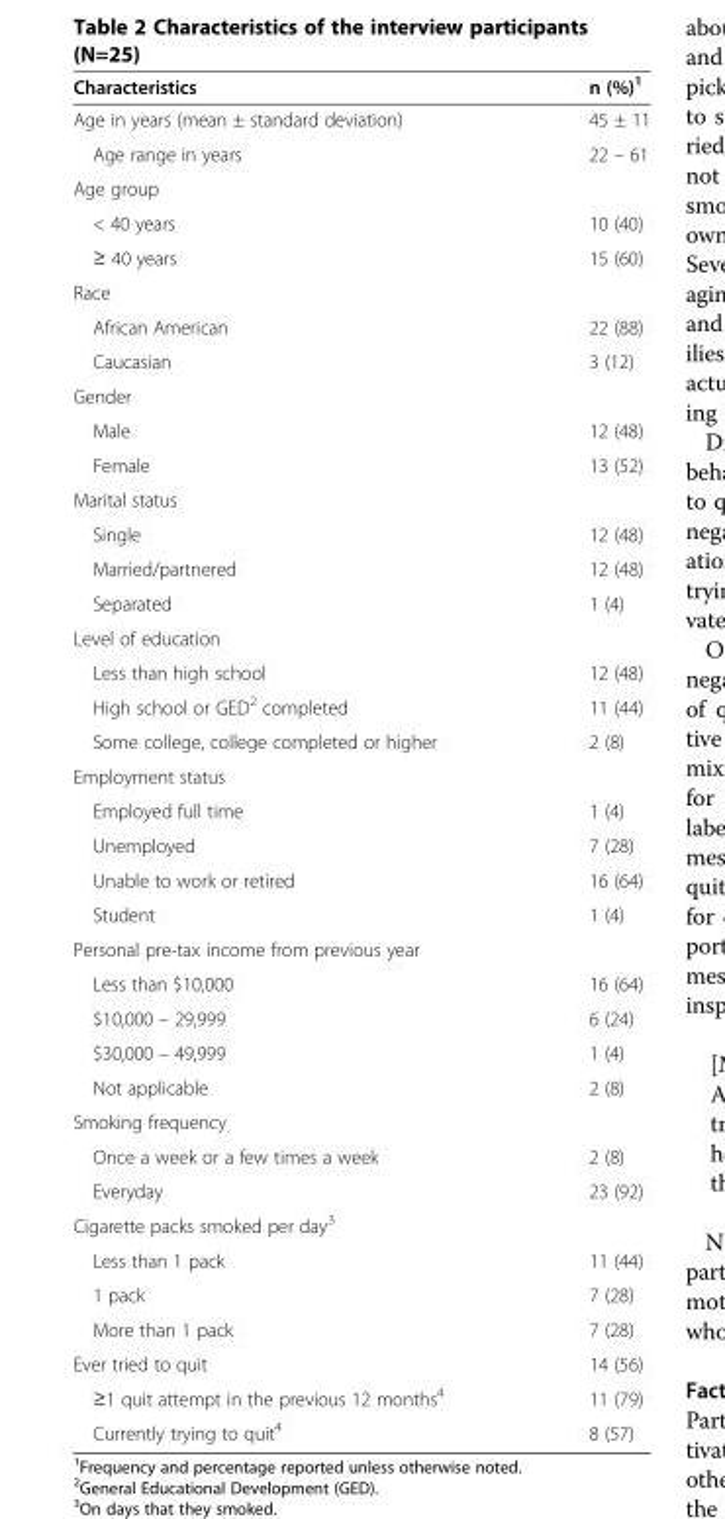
<table><thead><tr><td>Characteristics</td><td>n (%)<sup>1</sup></td></tr></thead><tbody><tr><td>Age in years (mean ± standard deviation)</td><td>45 ± 11</td></tr><tr><td>Age range in years</td><td>22 – 61</td></tr><tr><td colspan="2">Age group</td></tr><tr><td>&lt; 40 years</td><td>10 (40)</td></tr><tr><td>≥ 40 years</td><td>15 (60)</td></tr><tr><td colspan="2">Race</td></tr><tr><td>African American</td><td>22 (88)</td></tr><tr><td>Caucasian</td><td>3 (12)</td></tr><tr><td colspan="2">Gender</td></tr><tr><td>Male</td><td>12 (48)</td></tr><tr><td>Female</td><td>13 (52)</td></tr><tr><td colspan="2">Marital status</td></tr><tr><td>Single</td><td>12 (48)</td></tr><tr><td>Married/partnered</td><td>12 (48)</td></tr><tr><td>Separated</td><td>1 (4)</td></tr><tr><td colspan="2">Level of education</td></tr><tr><td>Less than high school</td><td>12 (48)</td></tr><tr><td>High school or GED<sup>2</sup> completed</td><td>11 (44)</td></tr><tr><td>Some college, college completed or higher</td><td>2 (8)</td></tr><tr><td colspan="2">Employment status</td></tr><tr><td>Employed full time</td><td>1 (4)</td></tr><tr><td>Unemployed</td><td>7 (28)</td></tr><tr><td>Unable to work or retired</td><td>16 (64)</td></tr><tr><td>Student</td><td>1 (4)</td></tr><tr><td colspan="2">Personal pre-tax income from previous year</td></tr><tr><td>Less than $10,000</td><td>16 (64)</td></tr><tr><td>$10,000 – 29,999</td><td>6 (24)</td></tr><tr><td>$30,000 – 49,999</td><td>1 (4)</td></tr><tr><td>Not applicable</td><td>2 (8)</td></tr><tr><td colspan="2">Smoking frequency</td></tr><tr><td>Once a week or a few times a week</td><td>2 (8)</td></tr><tr><td>Everyday</td><td>23 (92)</td></tr><tr><td colspan="2">Cigarette packs smoked per day<sup>3</sup></td></tr><tr><td>Less than 1 pack</td><td>11 (44)</td></tr><tr><td>1 pack</td><td>7 (28)</td></tr><tr><td>More than 1 pack</td><td>7 (28)</td></tr><tr><td>Ever tried to quit</td><td>14 (56)</td></tr><tr><td>≥1 quit attempt in the previous 12 months<sup>4</sup></td><td>11 (79)</td></tr><tr><td>Currently trying to quit<sup>4</sup></td><td>8 (57)</td></tr></tbody></table>